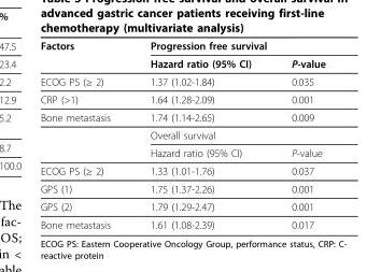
<table><thead><tr><td rowspan="2">Factors</td><td colspan="2">Progression free survival</td></tr><tr><td>Hazard ratio (95% CI)</td><td>P-value</td></tr></thead><tbody><tr><td>ECOG PS (≥ 2)</td><td>1.37 (1.02-1.84)</td><td>0.035</td></tr><tr><td>CRP (&gt;1)</td><td>1.64 (1.28-2.09)</td><td>0.001</td></tr><tr><td rowspan="3">Bone metastasis</td><td>1.74 (1.14-2.65)</td><td>0.009</td></tr><tr><td colspan="2">Overall survival</td></tr><tr><td>Hazard ratio (95% CI)</td><td>P-value</td></tr><tr><td>ECOG PS (≥ 2)</td><td>1.33 (1.01-1.76)</td><td>0.037</td></tr><tr><td>GPS (1)</td><td>1.75 (1.37-2.26)</td><td>0.001</td></tr><tr><td>GPS (2)</td><td>1.79 (1.29-2.47)</td><td>0.001</td></tr><tr><td>Bone metastasis</td><td>1.61 (1.08-2.39)</td><td>0.017</td></tr></tbody></table>